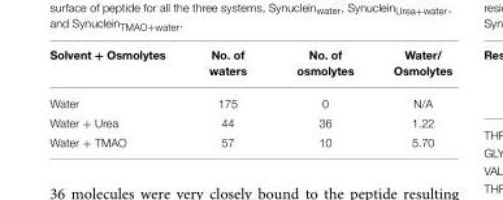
<table><thead><tr><td>Solvent + Osmolytes</td><td>No. of waters</td><td>No. of osmolytes</td><td>Water/ Osmolytes</td></tr></thead><tbody><tr><td>Water</td><td>175</td><td>0</td><td>N/A</td></tr><tr><td>Water + Urea</td><td>44</td><td>36</td><td>1.22</td></tr><tr><td>Water + TMAO</td><td>57</td><td>10</td><td>5.70</td></tr></tbody></table>